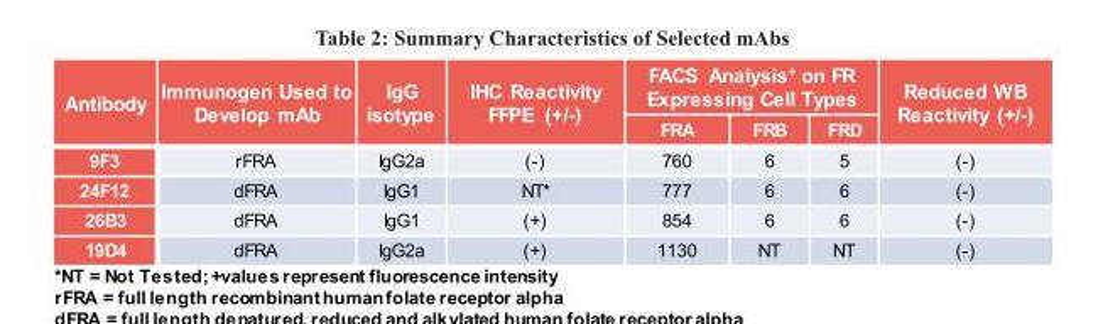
<table><thead><tr><td rowspan="2">Antibody</td><td rowspan="2">Immunogen Used to Develop mAb</td><td rowspan="2">IgG isotype</td><td rowspan="2">IHC Reactivity FFPE (+/-)</td><td colspan="3">FACS Analysis+ on FR Expressing Cell Types</td><td rowspan="2">Reduced WB Reactivity (+/-)</td></tr><tr><td>FRA</td><td>FRB</td><td>FRD</td></tr></thead><tbody><tr><td>9F3</td><td>rFRA</td><td>IgG2a</td><td>(-)</td><td>760</td><td>6</td><td>5</td><td>(-)</td></tr><tr><td>24F12</td><td>dFRA</td><td>IgG1</td><td>NT*</td><td>777</td><td>6</td><td>6</td><td>(-)</td></tr><tr><td>26B3</td><td>dFRA</td><td>IgG1</td><td>(+)</td><td>854</td><td>6</td><td>6</td><td>(-)</td></tr><tr><td>19D4</td><td>dFRA</td><td>IgG2a</td><td>(+)</td><td>1130</td><td>NT</td><td>NT</td><td>(-)</td></tr></tbody></table>